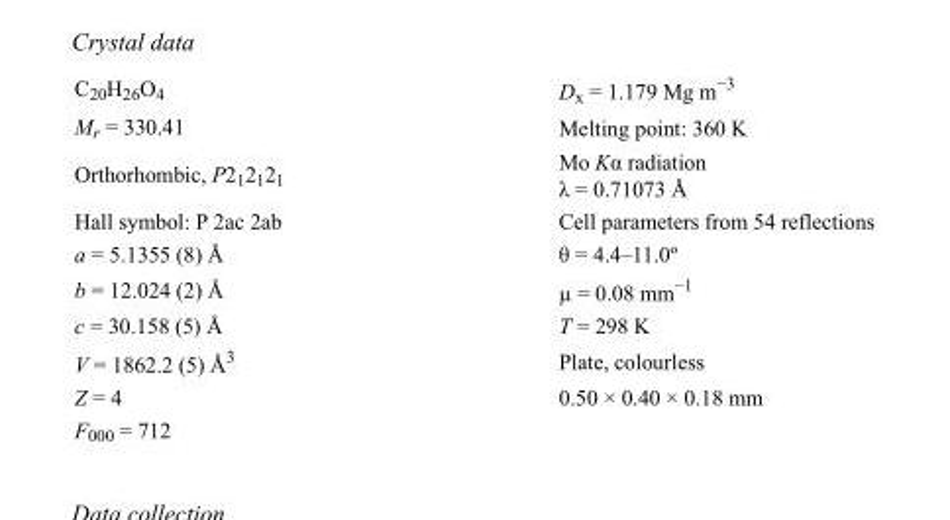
<table><tbody><tr><td>C<sub>20</sub>H<sub>26</sub>O<sub>4</sub></td><td>D<sub>x</sub> = 1.179 Mg m<sup>−3</sup></td></tr><tr><td>M<sub>r</sub> = 330.41</td><td>Melting point: 360 K</td></tr><tr><td>Orthorhombic, P2<sub>1</sub>2<sub>1</sub>2<sub>1</sub></td><td>Mo Kα radiation λ = 0.71073 Å</td></tr><tr><td>Hall symbol: P 2ac 2ab</td><td>Cell parameters from 54 reflections</td></tr><tr><td>a = 5.1355 (8) Å</td><td>θ = 4.4–11.0º</td></tr><tr><td>b = 12.024 (2) Å</td><td>µ = 0.08 mm<sup>−1</sup></td></tr><tr><td>c = 30.158 (5) Å</td><td>T = 298 K</td></tr><tr><td>V = 1862.2 (5) Å<sup>3</sup></td><td>Plate, colourless</td></tr><tr><td>Z = 4</td><td>0.50 × 0.40 × 0.18 mm</td></tr><tr><td>F000 = 712</td><td></td></tr></tbody></table>